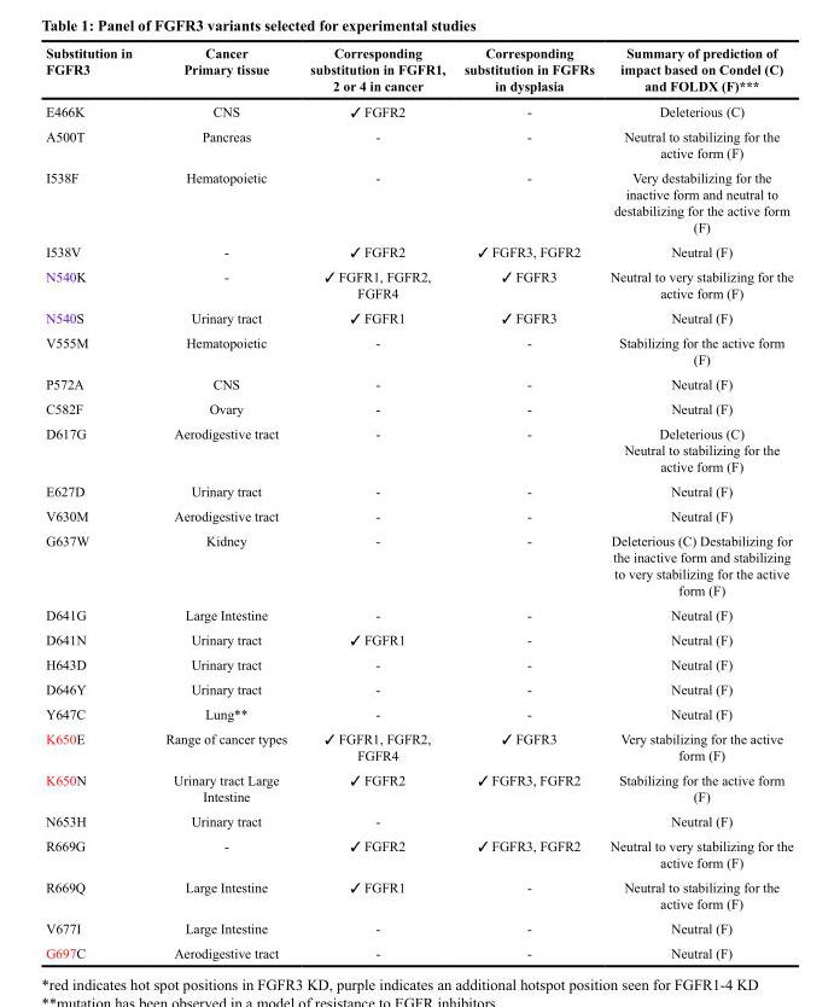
<table><thead><tr><td>Substitution in FGFR3</td><td>Cancer Primary tissue</td><td>Corresponding substitution in FGFR1, 2 or 4 in cancer</td><td>Corresponding substitution in FGFRs in dysplasia</td><td>Summary of prediction of impact based on Condel (C) and FOLDX (F)***</td></tr></thead><tbody><tr><td>E466K</td><td>CNS</td><td>✓ FGFR2</td><td>-</td><td>Deleterious (C)</td></tr><tr><td>A500T</td><td>Pancreas</td><td>-</td><td>-</td><td>Neutral to stabilizing for the active form (F)</td></tr><tr><td>I538F</td><td>Hematopoietic</td><td>-</td><td>-</td><td>Very destabilizing for the inactive form and neutral to destabilizing for the active form (F)</td></tr><tr><td>I538V</td><td>-</td><td>✓ FGFR2</td><td>✓ FGFR3, FGFR2</td><td>Neutral (F)</td></tr><tr><td>N540K</td><td>-</td><td>✓ FGFR1, FGFR2, FGFR4</td><td>✓ FGFR3</td><td>Neutral to very stabilizing for the active form (F)</td></tr><tr><td>N540S</td><td>Urinary tract</td><td>✓ FGFR1</td><td>✓ FGFR3</td><td>Neutral (F)</td></tr><tr><td>V555M</td><td>Hematopoietic</td><td>-</td><td>-</td><td>Stabilizing for the active form (F)</td></tr><tr><td>P572A</td><td>CNS</td><td>-</td><td>-</td><td>Neutral (F)</td></tr><tr><td>C582F</td><td>Ovary</td><td>-</td><td>-</td><td>Neutral (F)</td></tr><tr><td>D617G</td><td>Aerodigestive tract</td><td>-</td><td>-</td><td>Deleterious (C) Neutral to stabilizing for the active form (F)</td></tr><tr><td>E627D</td><td>Urinary tract</td><td>-</td><td>-</td><td>Neutral (F)</td></tr><tr><td>V630M</td><td>Aerodigestive tract</td><td>-</td><td>-</td><td>Neutral (F)</td></tr><tr><td>G637W</td><td>Kidney</td><td>-</td><td>-</td><td>Deleterious (C) Destabilizing for the inactive form and stabilizing to very stabilizing for the active form (F)</td></tr><tr><td>D641G</td><td>Large Intestine</td><td>-</td><td>-</td><td>Neutral (F)</td></tr><tr><td>D641N</td><td>Urinary tract</td><td>✓ FGFR1</td><td>-</td><td>Neutral (F)</td></tr><tr><td>H643D</td><td>Urinary tract</td><td>-</td><td>-</td><td>Neutral (F)</td></tr><tr><td>D646Y</td><td>Urinary tract</td><td>-</td><td>-</td><td>Neutral (F)</td></tr><tr><td>Y647C</td><td>Lung**</td><td>-</td><td>-</td><td>Neutral (F)</td></tr><tr><td>K650E</td><td>Range of cancer types</td><td>✓ FGFR1, FGFR2, FGFR4</td><td>✓ FGFR3</td><td>Very stabilizing for the active form (F)</td></tr><tr><td>K650N</td><td>Urinary tract Large Intestine</td><td>✓ FGFR2</td><td>✓ FGFR3, FGFR2</td><td>Stabilizing for the active form (F)</td></tr><tr><td>N653H</td><td>Urinary tract</td><td>-</td><td></td><td>Neutral (F)</td></tr><tr><td>R669G</td><td>-</td><td>✓ FGFR2</td><td>✓ FGFR3, FGFR2</td><td>Neutral to very stabilizing for the active form (F)</td></tr><tr><td>R669Q</td><td>Large Intestine</td><td>✓ FGFR1</td><td>-</td><td>Neutral to stabilizing for the active form (F)</td></tr><tr><td>V677I</td><td>Large Intestine</td><td>-</td><td>-</td><td>Neutral (F)</td></tr><tr><td>G697C</td><td>Aerodigestive tract</td><td>-</td><td>-</td><td>Neutral (F)</td></tr></tbody></table>